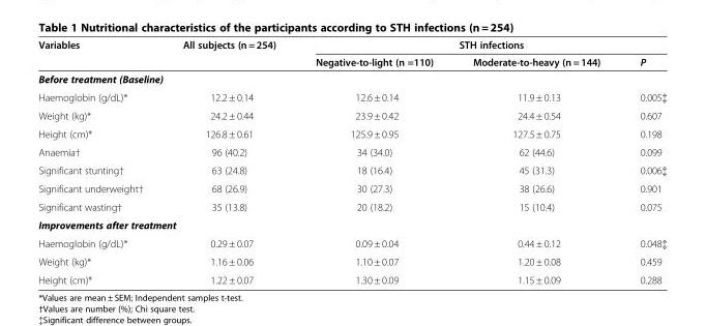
<table><thead><tr><td rowspan="2">Variables</td><td rowspan="2">All subjects (n = 254)</td><td colspan="3">STH infections</td></tr><tr><td>Negative-to-light (n =110)</td><td>Moderate-to-heavy (n = 144)</td><td>P</td></tr></thead><tbody><tr><td colspan="5">Before treatment (Baseline)</td></tr><tr><td>Haemoglobin (g/dL)*</td><td>12.2 ± 0.14</td><td>12.6 ± 0.14</td><td>11.9 ± 0.13</td><td>0.005‡</td></tr><tr><td>Weight (kg)*</td><td>24.2 ± 0.44</td><td>23.9 ± 0.42</td><td>24.4 ± 0.54</td><td>0.607</td></tr><tr><td>Height (cm)*</td><td>126.8 ± 0.61</td><td>125.9 ± 0.95</td><td>127.5 ± 0.75</td><td>0.198</td></tr><tr><td>Anaemia†</td><td>96 (40.2)</td><td>34 (34.0)</td><td>62 (44.6)</td><td>0.099</td></tr><tr><td>Significant stunting†</td><td>63 (24.8)</td><td>18 (16.4)</td><td>45 (31.3)</td><td>0.006‡</td></tr><tr><td>Significant underweight†</td><td>68 (26.9)</td><td>30 (27.3)</td><td>38 (26.6)</td><td>0.901</td></tr><tr><td>Significant wasting†</td><td>35 (13.8)</td><td>20 (18.2)</td><td>15 (10.4)</td><td>0.075</td></tr><tr><td colspan="5">Improvements after treatment</td></tr><tr><td>Haemoglobin (g/dL)*</td><td>0.29 ± 0.07</td><td>0.09 ± 0.04</td><td>0.44 ± 0.12</td><td>0.048‡</td></tr><tr><td>Weight (kg)*</td><td>1.16 ± 0.06</td><td>1.10 ± 0.07</td><td>1.20 ± 0.08</td><td>0.459</td></tr><tr><td>Height (cm)*</td><td>1.22 ± 0.07</td><td>1.30 ± 0.09</td><td>1.15 ± 0.09</td><td>0.288</td></tr></tbody></table>